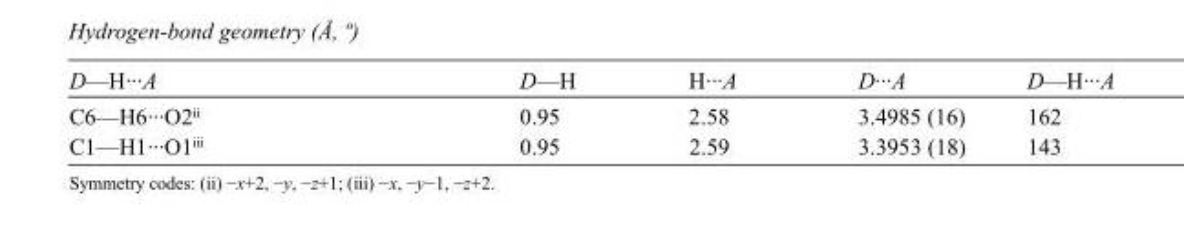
<table><tbody><tr><td>D—H···A</td><td>D—H</td><td>H···A</td><td>D···A</td><td>D—H···A</td></tr><tr><td>C6—H6···O2<sup>ii</sup></td><td>0.95</td><td>2.58</td><td>3.4985 (16)</td><td>162</td></tr><tr><td>C1—H1···O1<sup>iii</sup></td><td>0.95</td><td>2.59</td><td>3.3953 (18)</td><td>143</td></tr></tbody></table>